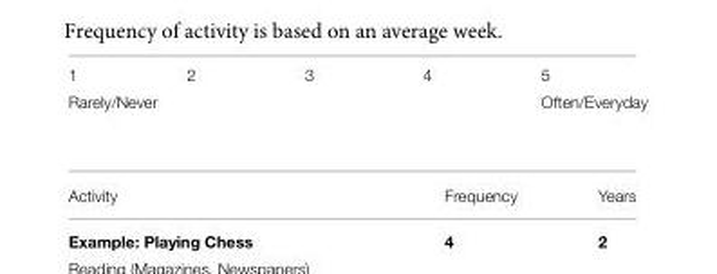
<table><tbody><tr><td>1</td><td>2</td><td>3</td><td>4</td><td>5</td></tr><tr><td>Rarely/Never</td><td></td><td></td><td></td><td>Often/Everyday</td></tr><tr><td>Activity</td><td></td><td></td><td>Frequency</td><td>Years</td></tr></tbody></table>